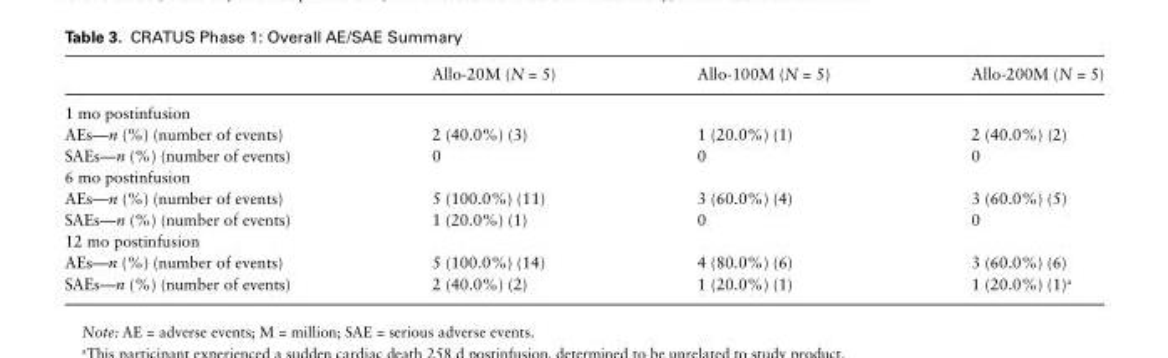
<table><thead><tr><td></td><td>Allo-20M (N = 5)</td><td>Allo-100M (N = 5)</td><td>Allo-200M (N = 5)</td></tr></thead><tbody><tr><td colspan="4">1 mo postinfusion</td></tr><tr><td>AEs—n (%) (number of events)</td><td>2 (40.0%) (3)</td><td>1 (20.0%) (1)</td><td>2 (40.0%) (2)</td></tr><tr><td>SAEs—n (%) (number of events)</td><td>0</td><td>0</td><td>0</td></tr><tr><td colspan="4">6 mo postinfusion</td></tr><tr><td>AEs—n (%) (number of events)</td><td>5 (100.0%) (11)</td><td>3 (60.0%) (4)</td><td>3 (60.0%) (5)</td></tr><tr><td>SAEs—n (%) (number of events)</td><td>1 (20.0%) (1)</td><td>0</td><td>0</td></tr><tr><td colspan="4">12 mo postinfusion</td></tr><tr><td>AEs—n (%) (number of events)</td><td>5 (100.0%) (14)</td><td>4 (80.0%) (6)</td><td>3 (60.0%) (6)</td></tr><tr><td>SAEs—n (%) (number of events)</td><td>2 (40.0%) (2)</td><td>1 (20.0%) (1)</td><td>1 (20.0%) (1)<sup>a</sup></td></tr></tbody></table>